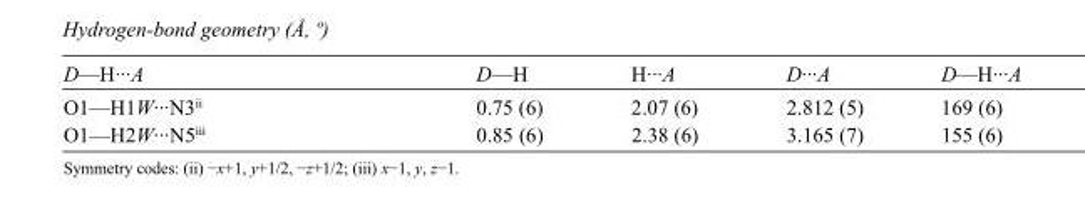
<table><tbody><tr><td>D—H···A</td><td>D—H</td><td>H···A</td><td>D···A</td><td>D—H···A</td></tr><tr><td>O1—H1W···N3<sup>ii</sup></td><td>0.75 (6)</td><td>2.07 (6)</td><td>2.812 (5)</td><td>169 (6)</td></tr><tr><td>O1—H2W···N5<sup>iii</sup></td><td>0.85 (6)</td><td>2.38 (6)</td><td>3.165 (7)</td><td>155 (6)</td></tr></tbody></table>